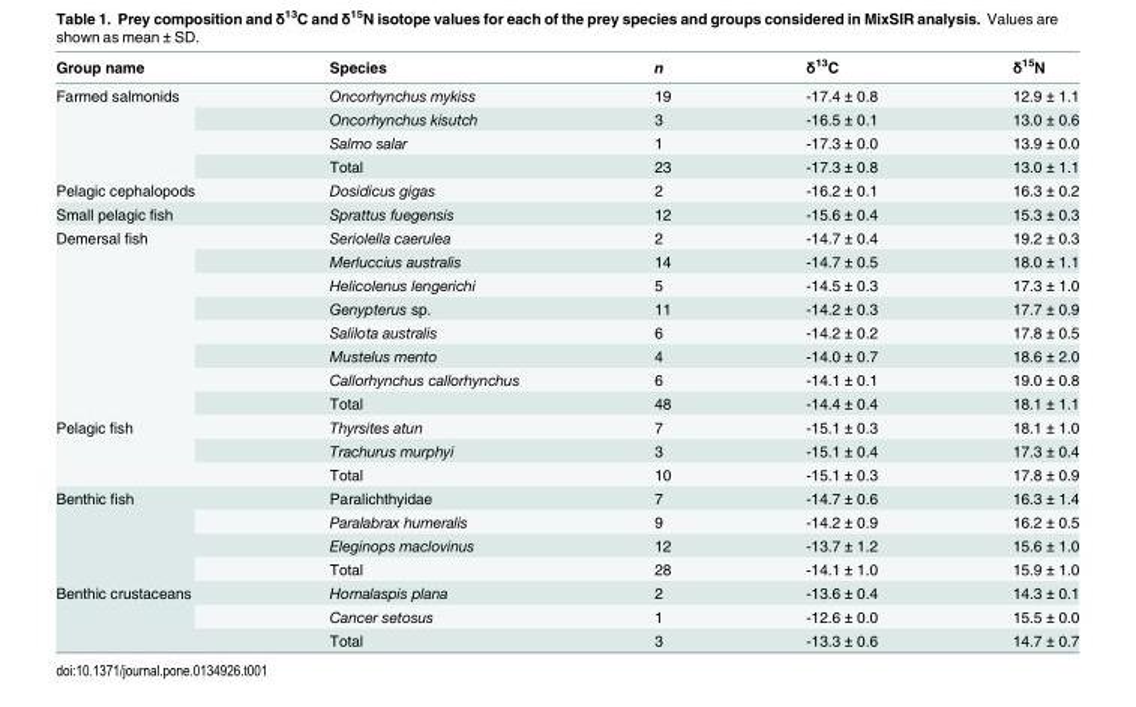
<table><thead><tr><td>Group name</td><td>Species</td><td>n</td><td>δ<sup>13</sup>C</td><td>δ<sup>15</sup>N</td></tr></thead><tbody><tr><td rowspan="4">Farmed salmonids</td><td>Oncorhynchus mykiss</td><td>19</td><td>-17.4 ± 0.8</td><td>12.9 ± 1.1</td></tr><tr><td>Oncorhynchus kisutch</td><td>3</td><td>-16.5 ± 0.1</td><td>13.0 ± 0.6</td></tr><tr><td>Salmo salar</td><td>1</td><td>-17.3 ± 0.0</td><td>13.9 ± 0.0</td></tr><tr><td>Total</td><td>23</td><td>-17.3 ± 0.8</td><td>13.0 ± 1.1</td></tr><tr><td>Pelagic cephalopods</td><td>Dosidicus gigas</td><td>2</td><td>-16.2 ± 0.1</td><td>16.3 ± 0.2</td></tr><tr><td>Small pelagic fish</td><td>Sprattus fuegensis</td><td>12</td><td>-15.6 ± 0.4</td><td>15.3 ± 0.3</td></tr><tr><td rowspan="8">Demersal fish</td><td>Seriolella caerulea</td><td>2</td><td>-14.7 ± 0.4</td><td>19.2 ± 0.3</td></tr><tr><td>Merluccius australis</td><td>14</td><td>-14.7 ± 0.5</td><td>18.0 ± 1.1</td></tr><tr><td>Helicolenus lengerichi</td><td>5</td><td>-14.5 ± 0.3</td><td>17.3 ± 1.0</td></tr><tr><td>Genypterus sp.</td><td>11</td><td>-14.2 ± 0.3</td><td>17.7 ± 0.9</td></tr><tr><td>Salilota australis</td><td>6</td><td>-14.2 ± 0.2</td><td>17.8 ± 0.5</td></tr><tr><td>Mustelus mento</td><td>4</td><td>-14.0 ± 0.7</td><td>18.6 ± 2.0</td></tr><tr><td>Callorhynchus callorhynchus</td><td>6</td><td>-14.1 ± 0.1</td><td>19.0 ± 0.8</td></tr><tr><td>Total</td><td>48</td><td>-14.4 ± 0.4</td><td>18.1 ± 1.1</td></tr><tr><td rowspan="3">Pelagic fish</td><td>Thyrsites atun</td><td>7</td><td>-15.1 ± 0.3</td><td>18.1 ± 1.0</td></tr><tr><td>Trachurus murphyi</td><td>3</td><td>-15.1 ± 0.4</td><td>17.3 ± 0.4</td></tr><tr><td>Total</td><td>10</td><td>-15.1 ± 0.3</td><td>17.8 ± 0.9</td></tr><tr><td rowspan="4">Benthic fish</td><td>Paralichthyidae</td><td>7</td><td>-14.7 ± 0.6</td><td>16.3 ± 1.4</td></tr><tr><td>Paralabrax humeralis</td><td>9</td><td>-14.2 ± 0.9</td><td>16.2 ± 0.5</td></tr><tr><td>Eleginops maclovinus</td><td>12</td><td>-13.7 ± 1.2</td><td>15.6 ± 1.0</td></tr><tr><td>Total</td><td>28</td><td>-14.1 ± 1.0</td><td>15.9 ± 1.0</td></tr><tr><td rowspan="3">Benthic crustaceans</td><td>Homalaspis plana</td><td>2</td><td>-13.6 ± 0.4</td><td>14.3 ± 0.1</td></tr><tr><td>Cancer setosus</td><td>1</td><td>-12.6 ± 0.0</td><td>15.5 ± 0.0</td></tr><tr><td>Total</td><td>3</td><td>-13.3 ± 0.6</td><td>14.7 ± 0.7</td></tr></tbody></table>